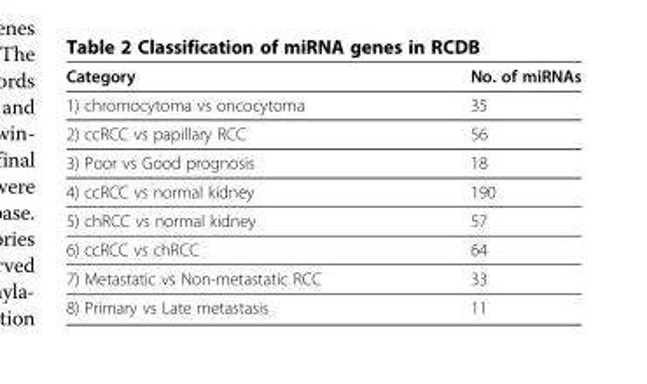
<table><thead><tr><td>Category</td><td>No. of miRNAs</td></tr></thead><tbody><tr><td>1) chromocytoma vs oncocytoma</td><td>35</td></tr><tr><td>2) ccRCC vs papillary RCC</td><td>56</td></tr><tr><td>3) Poor vs Good prognosis</td><td>18</td></tr><tr><td>4) ccRCC vs normal kidney</td><td>190</td></tr><tr><td>5) chRCC vs normal kidney</td><td>57</td></tr><tr><td>6) ccRCC vs chRCC</td><td>64</td></tr><tr><td>7) Metastatic vs Non-metastatic RCC</td><td>33</td></tr><tr><td>8) Primary vs Late metastasis</td><td>11</td></tr></tbody></table>